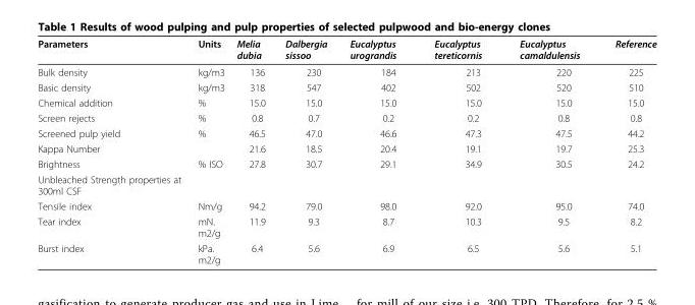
<table><thead><tr><td>Parameters</td><td>Units</td><td>Melia dubia</td><td>Dalbergia sissoo</td><td>Eucalyptus urograndis</td><td>Eucalyptus tereticornis</td><td>Eucalyptus camaldulensis</td><td>Reference</td></tr></thead><tbody><tr><td>Bulk density</td><td>kg/m3</td><td>136</td><td>230</td><td>184</td><td>213</td><td>220</td><td>225</td></tr><tr><td>Basic density</td><td>kg/m3</td><td>318</td><td>547</td><td>402</td><td>502</td><td>520</td><td>510</td></tr><tr><td>Chemical addition</td><td>%</td><td>15.0</td><td>15.0</td><td>15.0</td><td>15.0</td><td>15.0</td><td>15.0</td></tr><tr><td>Screen rejects</td><td>%</td><td>0.8</td><td>0.7</td><td>0.2</td><td>0.2</td><td>0.8</td><td>0.8</td></tr><tr><td>Screened pulp yield</td><td>%</td><td>46.5</td><td>47.0</td><td>46.6</td><td>47.3</td><td>47.5</td><td>44.2</td></tr><tr><td>Kappa Number</td><td></td><td>21.6</td><td>18.5</td><td>20.4</td><td>19.1</td><td>19.7</td><td>25.3</td></tr><tr><td>Brightness</td><td>% ISO</td><td>27.8</td><td>30.7</td><td>29.1</td><td>34.9</td><td>30.5</td><td>24.2</td></tr><tr><td colspan="8">Unbleached Strength properties at 300ml CSF</td></tr><tr><td>Tensile index</td><td>Nm/g</td><td>94.2</td><td>79.0</td><td>98.0</td><td>92.0</td><td>95.0</td><td>74.0</td></tr><tr><td>Tear index</td><td>mN. m2/g</td><td>11.9</td><td>9.3</td><td>8.7</td><td>10.3</td><td>9.5</td><td>8.2</td></tr><tr><td>Burst index</td><td>kPa. m2/g</td><td>6.4</td><td>5.6</td><td>6.9</td><td>6.5</td><td>5.6</td><td>5.1</td></tr></tbody></table>